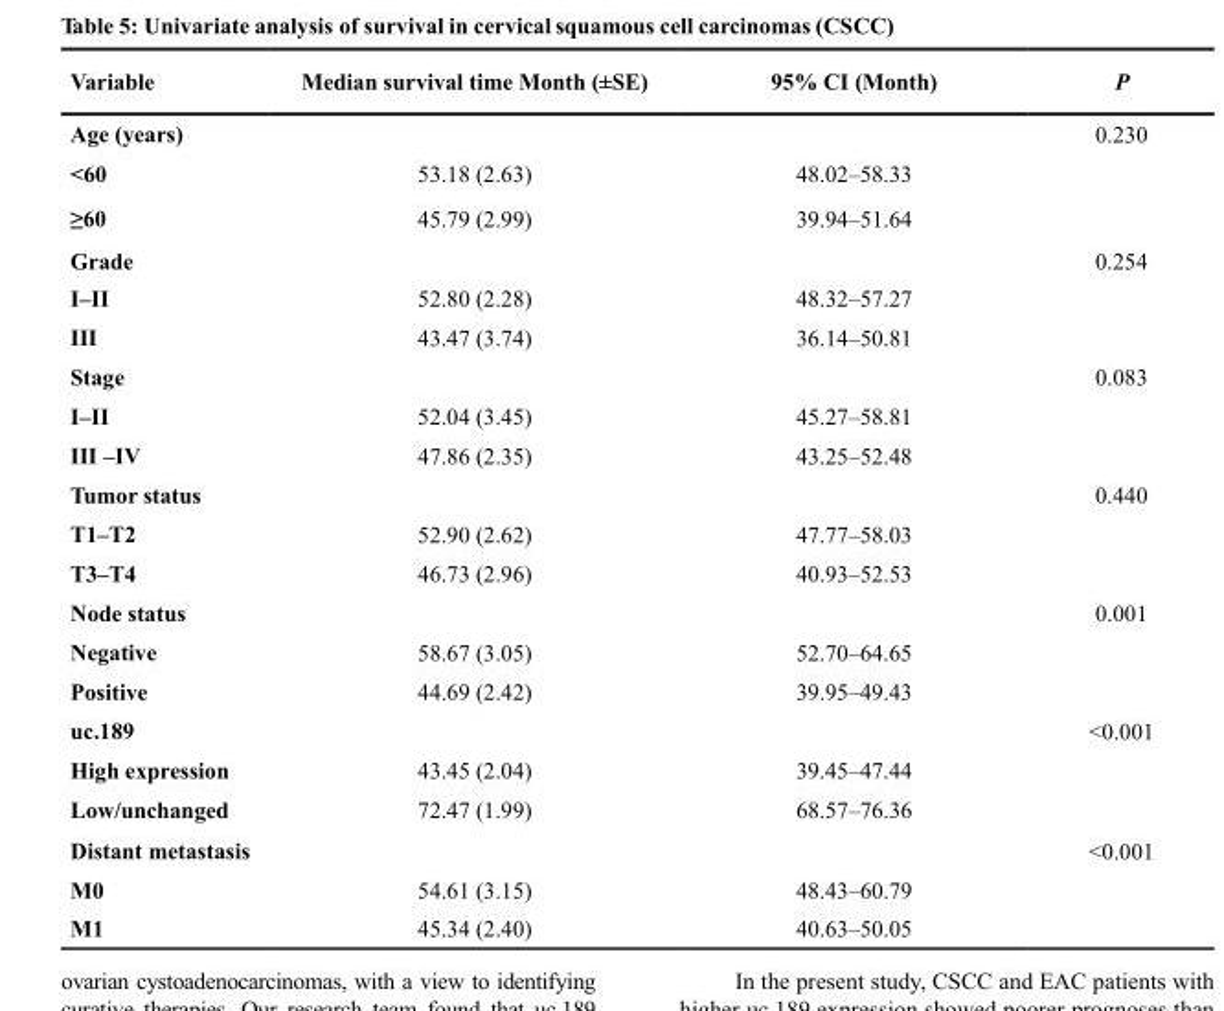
<table><thead><tr><td>Variable</td><td>Median survival time Month (±SE)</td><td>95% CI (Month)</td><td>P</td></tr></thead><tbody><tr><td>Age (years)</td><td></td><td></td><td>0.230</td></tr><tr><td>&lt;60</td><td>53.18 (2.63)</td><td>48.02–58.33</td><td></td></tr><tr><td>≥60</td><td>45.79 (2.99)</td><td>39.94–51.64</td><td></td></tr><tr><td>Grade</td><td></td><td></td><td>0.254</td></tr><tr><td>I–II</td><td>52.80 (2.28)</td><td>48.32–57.27</td><td></td></tr><tr><td>III</td><td>43.47 (3.74)</td><td>36.14–50.81</td><td></td></tr><tr><td>Stage</td><td></td><td></td><td>0.083</td></tr><tr><td>I–II</td><td>52.04 (3.45)</td><td>45.27–58.81</td><td></td></tr><tr><td>III –IV</td><td>47.86 (2.35)</td><td>43.25–52.48</td><td></td></tr><tr><td>Tumor status</td><td></td><td></td><td>0.440</td></tr><tr><td>T1–T2</td><td>52.90 (2.62)</td><td>47.77–58.03</td><td></td></tr><tr><td>T3–T4</td><td>46.73 (2.96)</td><td>40.93–52.53</td><td></td></tr><tr><td>Node status</td><td></td><td></td><td>0.001</td></tr><tr><td>Negative</td><td>58.67 (3.05)</td><td>52.70–64.65</td><td></td></tr><tr><td>Positive</td><td>44.69 (2.42)</td><td>39.95–49.43</td><td></td></tr><tr><td>uc.189</td><td></td><td></td><td>&lt;0.001</td></tr><tr><td>High expression</td><td>43.45 (2.04)</td><td>39.45–47.44</td><td></td></tr><tr><td>Low/unchanged</td><td>72.47 (1.99)</td><td>68.57–76.36</td><td></td></tr><tr><td>Distant metastasis</td><td></td><td></td><td>&lt;0.001</td></tr><tr><td>M0</td><td>54.61 (3.15)</td><td>48.43–60.79</td><td></td></tr><tr><td>M1</td><td>45.34 (2.40)</td><td>40.63–50.05</td><td></td></tr></tbody></table>